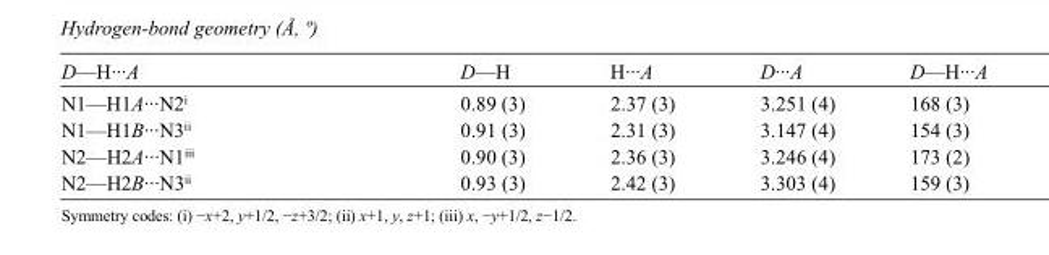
<table><tbody><tr><td>D—H···A</td><td>D—H</td><td>H···A</td><td>D···A</td><td>D—H···A</td></tr><tr><td>N1—H1A···N2<sup>i</sup></td><td>0.89 (3)</td><td>2.37 (3)</td><td>3.251 (4)</td><td>168 (3)</td></tr><tr><td>N1—H1B···N3<sup>ii</sup></td><td>0.91 (3)</td><td>2.31 (3)</td><td>3.147 (4)</td><td>154 (3)</td></tr><tr><td>N2—H2A···N1<sup>iii</sup></td><td>0.90 (3)</td><td>2.36 (3)</td><td>3.246 (4)</td><td>173 (2)</td></tr><tr><td>N2—H2B···N3<sup>ii</sup></td><td>0.93 (3)</td><td>2.42 (3)</td><td>3.303 (4)</td><td>159 (3)</td></tr></tbody></table>